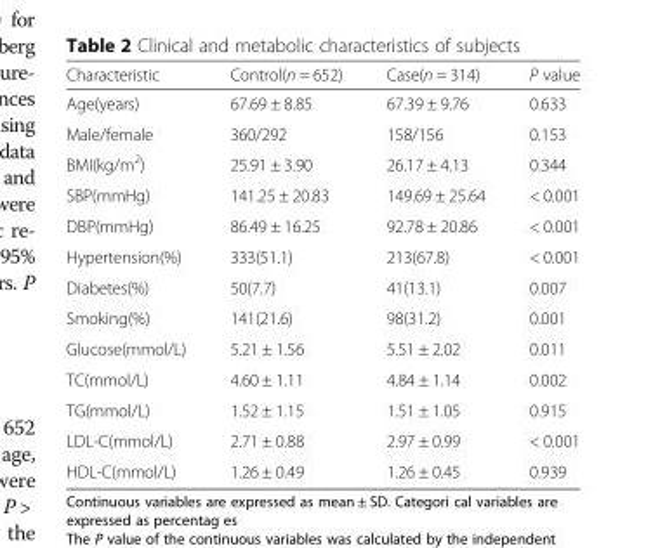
<table><thead><tr><td>Characteristic</td><td>Control(n = 652)</td><td>Case(n = 314)</td><td>P value</td></tr></thead><tbody><tr><td>Age(years)</td><td>67.69 ± 8.85</td><td>67.39 ± 9.76</td><td>0.633</td></tr><tr><td>Male/female</td><td>360/292</td><td>158/156</td><td>0.153</td></tr><tr><td>BMI(kg/m<sup>2</sup>)</td><td>25.91 ± 3.90</td><td>26.17 ± 4.13</td><td>0.344</td></tr><tr><td>SBP(mmHg)</td><td>141.25 ± 20.83</td><td>149.69 ± 25.64</td><td>&lt; 0.001</td></tr><tr><td>DBP(mmHg)</td><td>86.49 ± 16.25</td><td>92.78 ± 20.86</td><td>&lt; 0.001</td></tr><tr><td>Hypertension(%)</td><td>333(51.1)</td><td>213(67.8)</td><td>&lt; 0.001</td></tr><tr><td>Diabetes(%)</td><td>50(7.7)</td><td>41(13.1)</td><td>0.007</td></tr><tr><td>Smoking(%)</td><td>141(21.6)</td><td>98(31.2)</td><td>0.001</td></tr><tr><td>Glucose(mmol/L)</td><td>5.21 ± 1.56</td><td>5.51 ± 2.02</td><td>0.011</td></tr><tr><td>TC(mmol/L)</td><td>4.60 ± 1.11</td><td>4.84 ± 1.14</td><td>0.002</td></tr><tr><td>TG(mmol/L)</td><td>1.52 ± 1.15</td><td>1.51 ± 1.05</td><td>0.915</td></tr><tr><td>LDL-C(mmol/L)</td><td>2.71 ± 0.88</td><td>2.97 ± 0.99</td><td>&lt; 0.001</td></tr><tr><td>HDL-C(mmol/L)</td><td>1.26 ± 0.49</td><td>1.26 ± 0.45</td><td>0.939</td></tr></tbody></table>